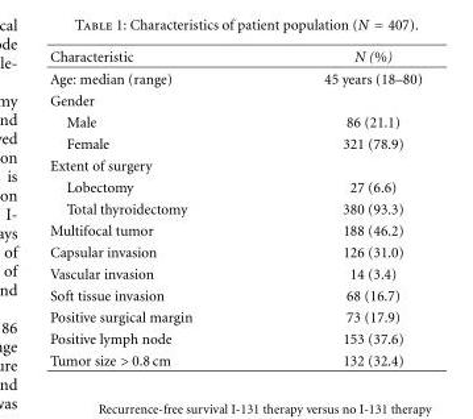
<table><thead><tr><td>Characteristic</td><td>N (%)</td></tr></thead><tbody><tr><td>Age: median (range)</td><td>45 years (18–80)</td></tr><tr><td colspan="2">Gender</td></tr><tr><td>Male</td><td>86 (21.1)</td></tr><tr><td>Female</td><td>321 (78.9)</td></tr><tr><td colspan="2">Extent of surgery</td></tr><tr><td>Lobectomy</td><td>27 (6.6)</td></tr><tr><td>Total thyroidectomy</td><td>380 (93.3)</td></tr><tr><td>Multifocal tumor</td><td>188 (46.2)</td></tr><tr><td>Capsular invasion</td><td>126 (31.0)</td></tr><tr><td>Vascular invasion</td><td>14 (3.4)</td></tr><tr><td>Soft tissue invasion</td><td>68 (16.7)</td></tr><tr><td>Positive surgical margin</td><td>73 (17.9)</td></tr><tr><td>Positive lymph node</td><td>153 (37.6)</td></tr><tr><td>Tumor size &gt; 0.8 cm</td><td>132 (32.4)</td></tr></tbody></table>